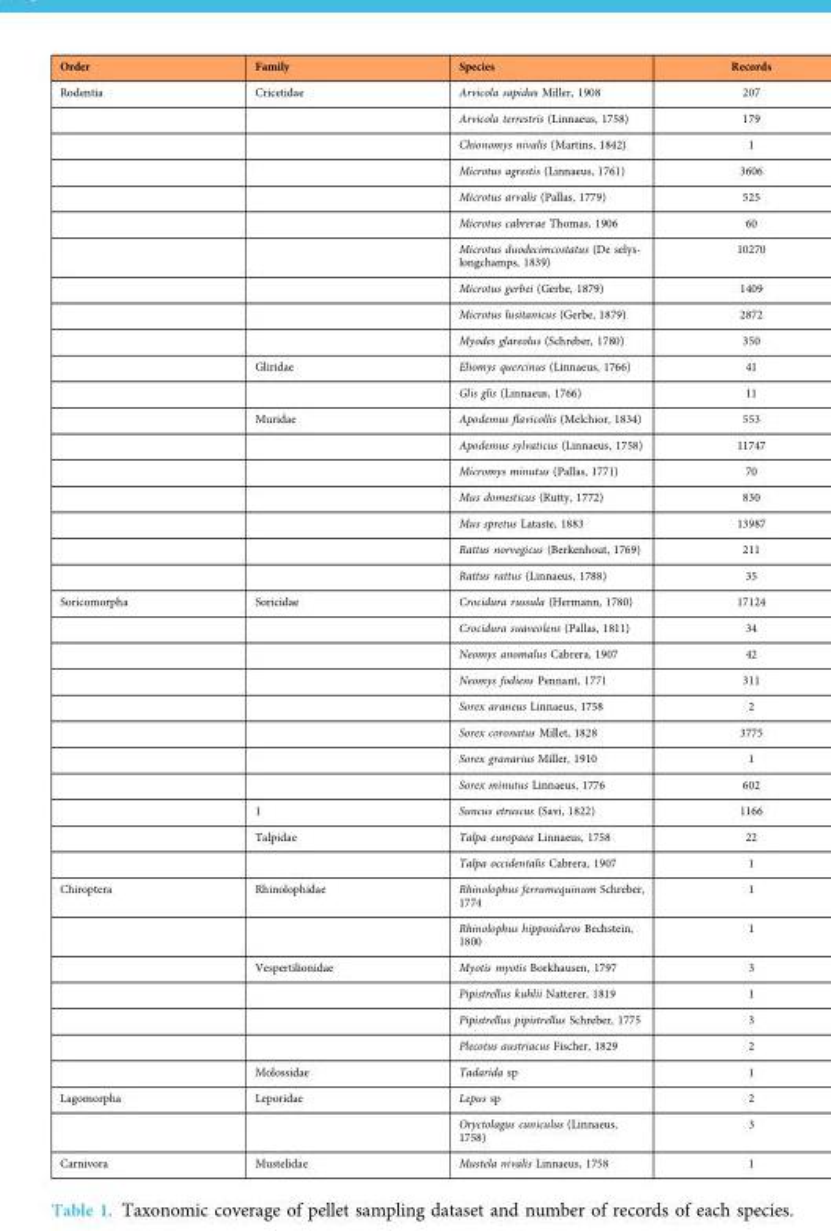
<table><thead><tr><td>Order</td><td>Family</td><td>Species</td><td>Records</td></tr></thead><tbody><tr><td rowspan="19">Rodentia</td><td>Cricetidae</td><td>Arvicola sapidus Miller, 1908</td><td>207</td></tr><tr><td></td><td>Arvicola terrestris (Linnaeus, 1758)</td><td>179</td></tr><tr><td></td><td>Chionomys nivalis (Martins, 1842)</td><td>1</td></tr><tr><td></td><td>Microtus agrestis (Linnaeus, 1761)</td><td>3606</td></tr><tr><td></td><td>Microtus arvalis (Pallas, 1779)</td><td>525</td></tr><tr><td></td><td>Microtus cabrerae Thomas, 1906</td><td>60</td></tr><tr><td></td><td>Microtus duodecimcostatus (De selys- longchamps, 1839)</td><td>10270</td></tr><tr><td></td><td>Microtus gerbei (Gerbe, 1879)</td><td>1409</td></tr><tr><td></td><td>Microtus lusitanicus (Gerbe, 1879)</td><td>2872</td></tr><tr><td></td><td>Myodes glareolus (Schreber, 1780)</td><td>350</td></tr><tr><td>Gliridae</td><td>Eliomys quercinus (Linnaeus, 1766)</td><td>41</td></tr><tr><td></td><td>Glis glis (Linnaeus, 1766)</td><td>11</td></tr><tr><td>Muridae</td><td>Apodemus flavicollis (Melchior, 1834)</td><td>553</td></tr><tr><td></td><td>Apodemus sylvaticus (Linnaeus, 1758)</td><td>11747</td></tr><tr><td></td><td>Micromys minutus (Pallas, 1771)</td><td>70</td></tr><tr><td></td><td>Mus domesticus (Rutty, 1772)</td><td>830</td></tr><tr><td></td><td>Mus spretus Lataste, 1883</td><td>13987</td></tr><tr><td></td><td>Rattus norvegicus (Berkenhout, 1769)</td><td>211</td></tr><tr><td></td><td>Rattus rattus (Linnaeus, 1788)</td><td>35</td></tr><tr><td rowspan="11">Soricomorpha</td><td>Soricidae</td><td>Crocidura russula (Hermann, 1780)</td><td>17124</td></tr><tr><td></td><td>Crocidura suaveolens (Pallas, 1811)</td><td>34</td></tr><tr><td></td><td>Neomys anomalus Cabrera, 1907</td><td>42</td></tr><tr><td></td><td>Neomys fodiens Pennant, 1771</td><td>311</td></tr><tr><td></td><td>Sorex araneus Linnaeus, 1758</td><td>2</td></tr><tr><td></td><td>Sorex coronatus Millet, 1828</td><td>3775</td></tr><tr><td></td><td>Sorex granarius Miller, 1910</td><td>1</td></tr><tr><td></td><td>Sorex minutus Linnaeus, 1776</td><td>602</td></tr><tr><td>1</td><td>Suncus etruscus (Savi, 1822)</td><td>1166</td></tr><tr><td>Talpidae</td><td>Talpa europaea Linnaeus, 1758</td><td>22</td></tr><tr><td></td><td>Talpa occidentalis Cabrera, 1907</td><td>1</td></tr><tr><td rowspan="7">Chiroptera</td><td>Rhinolophidae</td><td>Rhinolophus ferrumequinum Schreber, 1774</td><td>1</td></tr><tr><td></td><td>Rhinolophus hipposideros Bechstein, 1800</td><td>1</td></tr><tr><td>Vespertilionidae</td><td>Myotis myotis Borkhausen, 1797</td><td>3</td></tr><tr><td></td><td>Pipistrellus kuhlii Natterer, 1819</td><td>1</td></tr><tr><td></td><td>Pipistrellus pipistrellus Schreber, 1775</td><td>3</td></tr><tr><td></td><td>Plecotus austriacus Fischer, 1829</td><td>2</td></tr><tr><td>Molossidae</td><td>Tadarida sp</td><td>1</td></tr><tr><td rowspan="2">Lagomorpha</td><td>Leporidae</td><td>Lepus sp</td><td>2</td></tr><tr><td></td><td>Oryctolagus cuniculus (Linnaeus, 1758)</td><td>3</td></tr><tr><td>Carnivora</td><td>Mustelidae</td><td>Mustela nivalis Linnaeus, 1758</td><td>1</td></tr></tbody></table>